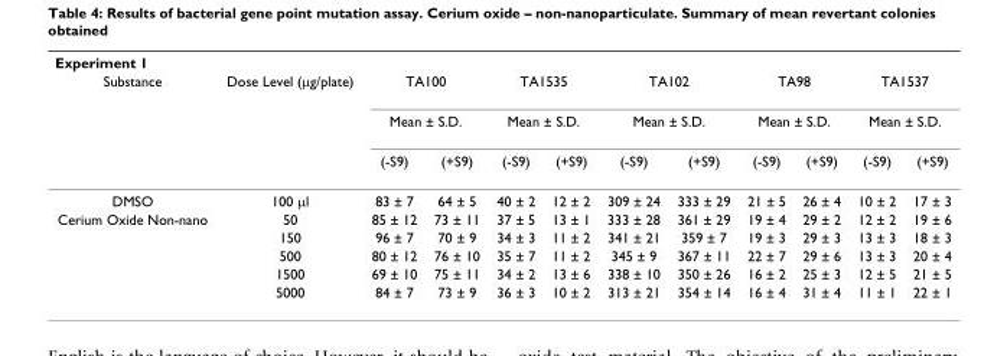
<table><thead><tr><td colspan="12">Experiment 1</td></tr><tr><td rowspan="3">Substance</td><td rowspan="3">Dose Level (μg/plate)</td><td rowspan="2" colspan="2">TA100 Mean ± S.D.</td><td rowspan="2" colspan="2">TA1535 Mean ± S.D.</td><td rowspan="2" colspan="2">TA102 Mean ± S.D.</td><td rowspan="2" colspan="2">TA98 Mean ± S.D.</td><td rowspan="2" colspan="2">TA1537 Mean ± S.D.</td></tr><tr></tr><tr><td>(-S9)</td><td>(+S9)</td><td>(-S9)</td><td>(+S9)</td><td>(-S9)</td><td>(+S9)</td><td>(-S9)</td><td>(+S9)</td><td>(-S9)</td><td>(+S9)</td></tr></thead><tbody><tr><td>DMSO</td><td>100 μl</td><td>83 ± 7</td><td>64 ± 5</td><td>40 ± 2</td><td>12 ± 2</td><td>309 ± 24</td><td>333 ± 29</td><td>21 ± 5</td><td>26 ± 4</td><td>10 ± 2</td><td>17 ± 3</td></tr><tr><td rowspan="5">Cerium Oxide Non-nano</td><td>50</td><td>85 ± 12</td><td>73 ± 11</td><td>37 ± 5</td><td>13 ± 1</td><td>333 ± 28</td><td>361 ± 29</td><td>19 ± 4</td><td>29 ± 2</td><td>12 ± 2</td><td>19 ± 6</td></tr><tr><td>150</td><td>96 ± 7</td><td>70 ± 9</td><td>34 ± 3</td><td>11 ± 2</td><td>341 ± 21</td><td>359 ± 7</td><td>19 ± 3</td><td>29 ± 3</td><td>13 ± 3</td><td>18 ± 3</td></tr><tr><td>500</td><td>80 ± 12</td><td>76 ± 10</td><td>35 ± 7</td><td>11 ± 2</td><td>345 ± 9</td><td>367 ± 11</td><td>22 ± 7</td><td>29 ± 6</td><td>13 ± 3</td><td>20 ± 4</td></tr><tr><td>1500</td><td>69 ± 10</td><td>75 ± 11</td><td>34 ± 2</td><td>13 ± 6</td><td>338 ± 10</td><td>350 ± 26</td><td>16 ± 2</td><td>25 ± 3</td><td>12 ± 5</td><td>21 ± 5</td></tr><tr><td>5000</td><td>84 ± 7</td><td>73 ± 9</td><td>36 ± 3</td><td>10 ± 2</td><td>313 ± 21</td><td>354 ± 14</td><td>16 ± 4</td><td>31 ± 4</td><td>11 ± 1</td><td>22 ± 1</td></tr></tbody></table>